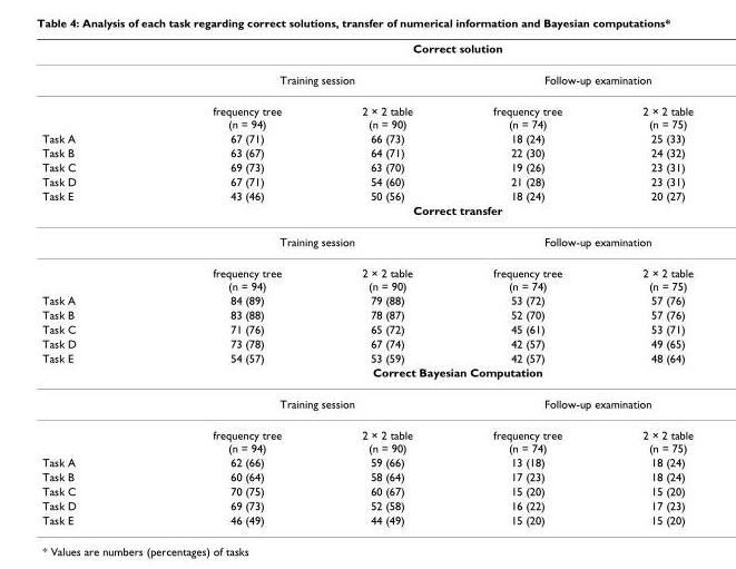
<table><thead><tr><td rowspan="3"></td><td colspan="4">Correct solution</td></tr><tr><td colspan="2">Training session</td><td colspan="2">Follow-up examination</td></tr><tr><td>frequency tree (n = 94)</td><td>2 × 2 table (n = 90)</td><td>frequency tree (n = 74)</td><td>2 × 2 table (n = 75)</td></tr></thead><tbody><tr><td>Task A</td><td>67 (71)</td><td>66 (73)</td><td>18 (24)</td><td>25 (33)</td></tr><tr><td>Task B</td><td>63 (67)</td><td>64 (71)</td><td>22 (30)</td><td>24 (32)</td></tr><tr><td>Task C</td><td>69 (73)</td><td>63 (70)</td><td>19 (26)</td><td>23 (31)</td></tr><tr><td>Task D</td><td>67 (71)</td><td>54 (60)</td><td>21 (28)</td><td>23 (31)</td></tr><tr><td rowspan="4">Task E</td><td>43 (46)</td><td>50 (56)</td><td>18 (24)</td><td>20 (27)</td></tr><tr><td colspan="4">Correct transfer</td></tr><tr><td colspan="2">Training session</td><td colspan="2">Follow-up examination</td></tr><tr><td>frequency tree (n = 94)</td><td>2 × 2 table (n = 90)</td><td>frequency tree (n = 74)</td><td>2 × 2 table (n = 75)</td></tr><tr><td>Task A</td><td>84 (89)</td><td>79 (88)</td><td>53 (72)</td><td>57 (76)</td></tr><tr><td>Task B</td><td>83 (88)</td><td>78 (87)</td><td>52 (70)</td><td>57 (76)</td></tr><tr><td>Task C</td><td>71 (76)</td><td>65 (72)</td><td>45 (61)</td><td>53 (71)</td></tr><tr><td>Task D</td><td>73 (78)</td><td>67 (74)</td><td>42 (57)</td><td>49 (65)</td></tr><tr><td rowspan="4">Task E</td><td>54 (57)</td><td>53 (59)</td><td>42 (57)</td><td>48 (64)</td></tr><tr><td colspan="4">Correct Bayesian Computation</td></tr><tr><td colspan="2">Training session</td><td colspan="2">Follow-up examination</td></tr><tr><td>frequency tree (n = 94)</td><td>2 × 2 table (n = 90)</td><td>frequency tree (n = 74)</td><td>2 × 2 table (n = 75)</td></tr><tr><td>Task A</td><td>62 (66)</td><td>59 (66)</td><td>13 (18)</td><td>18 (24)</td></tr><tr><td>Task B</td><td>60 (64)</td><td>58 (64)</td><td>17 (23)</td><td>18 (24)</td></tr><tr><td>Task C</td><td>70 (75)</td><td>60 (67)</td><td>15 (20)</td><td>15 (20)</td></tr><tr><td>Task D</td><td>69 (73)</td><td>52 (58)</td><td>16 (22)</td><td>17 (23)</td></tr><tr><td>Task E</td><td>46 (49)</td><td>44 (49)</td><td>15 (20)</td><td>15 (20)</td></tr></tbody></table>